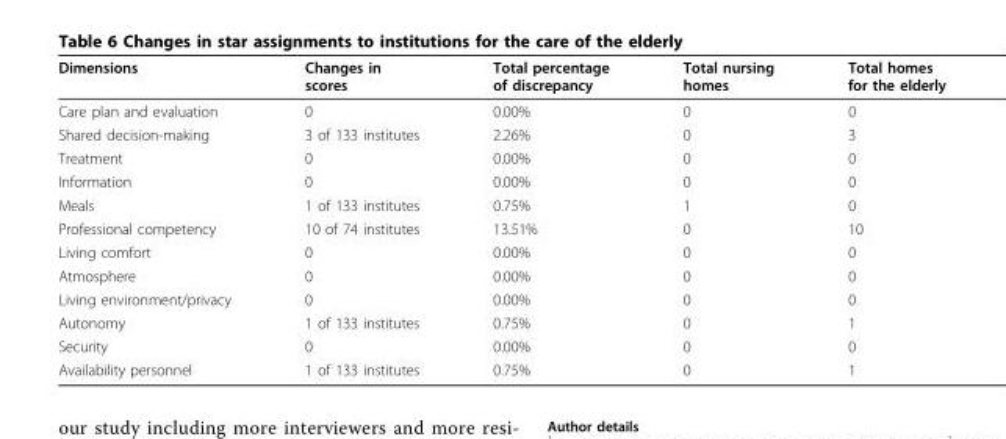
<table><thead><tr><td>Dimensions</td><td>Changes in scores</td><td>Total percentage of discrepancy</td><td>Total nursing homes</td><td>Total homes for the elderly</td></tr></thead><tbody><tr><td>Care plan and evaluation</td><td>0</td><td>0.00%</td><td>0</td><td>0</td></tr><tr><td>Shared decision-making</td><td>3 of 133 institutes</td><td>2.26%</td><td>0</td><td>3</td></tr><tr><td>Treatment</td><td>0</td><td>0.00%</td><td>0</td><td>0</td></tr><tr><td>Information</td><td>0</td><td>0.00%</td><td>0</td><td>0</td></tr><tr><td>Meals</td><td>1 of 133 institutes</td><td>0.75%</td><td>1</td><td>0</td></tr><tr><td>Professional competency</td><td>10 of 74 institutes</td><td>13.51%</td><td>0</td><td>10</td></tr><tr><td>Living comfort</td><td>0</td><td>0.00%</td><td>0</td><td>0</td></tr><tr><td>Atmosphere</td><td>0</td><td>0.00%</td><td>0</td><td>0</td></tr><tr><td>Living environment/privacy</td><td>0</td><td>0.00%</td><td>0</td><td>0</td></tr><tr><td>Autonomy</td><td>1 of 133 institutes</td><td>0.75%</td><td>0</td><td>1</td></tr><tr><td>Security</td><td>0</td><td>0.00%</td><td>0</td><td>0</td></tr><tr><td>Availability personnel</td><td>1 of 133 institutes</td><td>0.75%</td><td>0</td><td>1</td></tr></tbody></table>